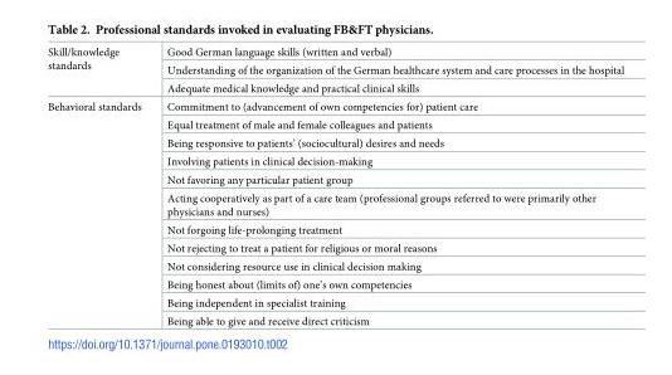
<table><tbody><tr><td rowspan="3">Skill/knowledge standards</td><td>Good German language skills (written and verbal)</td></tr><tr><td>Understanding of the organization of the German healthcare system and care processes in the hospital</td></tr><tr><td>Adequate medical knowledge and practical clinical skills</td></tr><tr><td rowspan="12">Behavioral standards</td><td>Commitment to (advancement of own competencies for) patient care</td></tr><tr><td>Equal treatment of male and female colleagues and patients</td></tr><tr><td>Being responsive to patients’ (sociocultural) desires and needs</td></tr><tr><td>Involving patients in clinical decision-making</td></tr><tr><td>Not favoring any particular patient group</td></tr><tr><td>Acting cooperatively as part of a care team (professional groups referred to were primarily other physicians and nurses)</td></tr><tr><td>Not forgoing life-prolonging treatment</td></tr><tr><td>Not rejecting to treat a patient for religious or moral reasons</td></tr><tr><td>Not considering resource use in clinical decision making</td></tr><tr><td>Being honest about (limits of) one’s own competencies</td></tr><tr><td>Being independent in specialist training</td></tr><tr><td>Being able to give and receive direct criticism</td></tr></tbody></table>